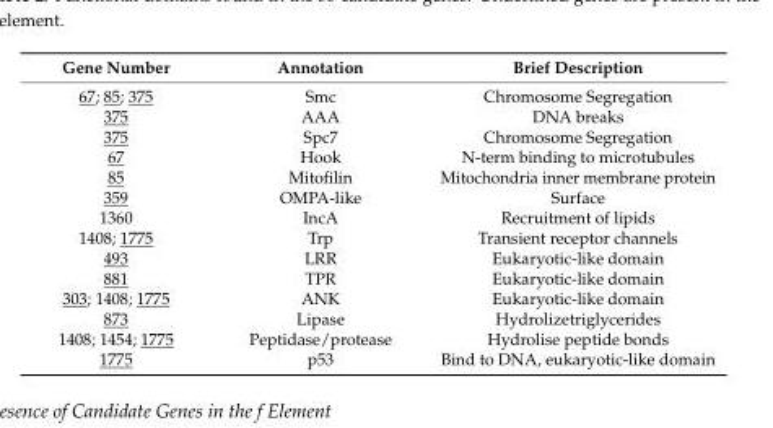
<table><thead><tr><td>Gene Number</td><td>Annotation</td><td>Brief Description</td></tr></thead><tbody><tr><td>67; 85; 375</td><td>Smc</td><td>Chromosome Segregation</td></tr><tr><td>375</td><td>AAA</td><td>DNA breaks</td></tr><tr><td>375</td><td>Spc7</td><td>Chromosome Segregation</td></tr><tr><td>67</td><td>Hook</td><td>N-term binding to microtubules</td></tr><tr><td>85</td><td>Mitofilin</td><td>Mitochondria inner membrane protein</td></tr><tr><td>359</td><td>OMPA-like</td><td>Surface</td></tr><tr><td>1360</td><td>IncA</td><td>Recruitment of lipids</td></tr><tr><td>1408; 1775</td><td>Trp</td><td>Transient receptor channels</td></tr><tr><td>493</td><td>LRR</td><td>Eukaryotic-like domain</td></tr><tr><td>881</td><td>TPR</td><td>Eukaryotic-like domain</td></tr><tr><td>303; 1408; 1775</td><td>ANK</td><td>Eukaryotic-like domain</td></tr><tr><td>873</td><td>Lipase</td><td>Hydrolizetriglycerides</td></tr><tr><td>1408; 1454; 1775</td><td>Peptidase/protease</td><td>Hydrolise peptide bonds</td></tr><tr><td>1775</td><td>p53</td><td>Bind to DNA, eukaryotic-like domain</td></tr></tbody></table>